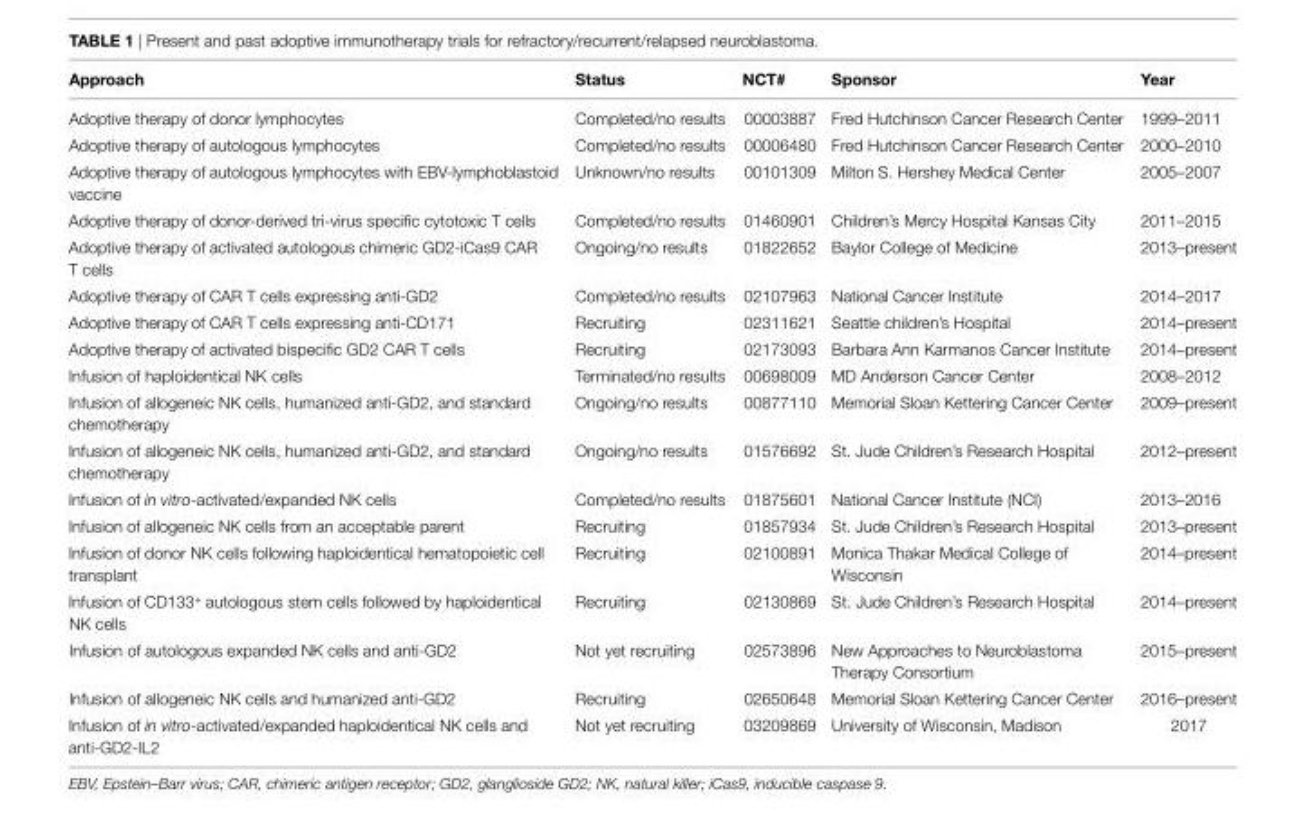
<table><thead><tr><td>Approach</td><td>status</td><td>Nct#</td><td>sponsor</td><td>Year</td></tr></thead><tbody><tr><td>Adoptive therapy of donor lymphocytes</td><td>Completed/no results</td><td>00003887</td><td>Fred Hutchinson Cancer Research Center</td><td>1999–2011</td></tr><tr><td>Adoptive therapy of autologous lymphocytes</td><td>Completed/no results</td><td>00006480</td><td>Fred Hutchinson Cancer Research Center</td><td>2000–2010</td></tr><tr><td>Adoptive therapy of autologous lymphocytes with EBV-lymphoblastoid vaccine</td><td>Unknown/no results</td><td>00101309</td><td>Milton S. Hershey Medical Center</td><td>2005–2007</td></tr><tr><td>Adoptive therapy of donor-derived tri-virus specific cytotoxic T cells</td><td>Completed/no results</td><td>01460901</td><td>Children’s Mercy Hospital Kansas City</td><td>2011–2015</td></tr><tr><td>Adoptive therapy of activated autologous chimeric GD2-iCas9 CAR T cells</td><td>Ongoing/no results</td><td>01822652</td><td>Baylor College of Medicine</td><td>2013–present</td></tr><tr><td>Adoptive therapy of CAR T cells expressing anti-GD2</td><td>Completed/no results</td><td>02107963</td><td>National Cancer Institute</td><td>2014–2017</td></tr><tr><td>Adoptive therapy of CAR T cells expressing anti-CD171</td><td>Recruiting</td><td>02311621</td><td>Seattle children’s Hospital</td><td>2014–present</td></tr><tr><td>Adoptive therapy of activated bispecific GD2 CAR T cells</td><td>Recruiting</td><td>02173093</td><td>Barbara Ann Karmanos Cancer Institute</td><td>2014–present</td></tr><tr><td>Infusion of haploidentical NK cells</td><td>Terminated/no results</td><td>00698009</td><td>MD Anderson Cancer Center</td><td>2008–2012</td></tr><tr><td>Infusion of allogeneic NK cells, humanized anti-GD2, and standard chemotherapy</td><td>Ongoing/no results</td><td>00877110</td><td>Memorial Sloan Kettering Cancer Center</td><td>2009–present</td></tr><tr><td>Infusion of allogeneic NK cells, humanized anti-GD2, and standard chemotherapy</td><td>Ongoing/no results</td><td>01576692</td><td>St. Jude Children’s Research Hospital</td><td>2012–present</td></tr><tr><td>Infusion of in vitro-activated/expanded NK cells</td><td>Completed/no results</td><td>01875601</td><td>National Cancer Institute (NCI)</td><td>2013–2016</td></tr><tr><td>Infusion of allogeneic NK cells from an acceptable parent</td><td>Recruiting</td><td>01857934</td><td>St. Jude Children’s Research Hospital</td><td>2013–present</td></tr><tr><td>Infusion of donor NK cells following haploidentical hematopoietic cell transplant</td><td>Recruiting</td><td>02100891</td><td>Monica Thakar Medical College of Wisconsin</td><td>2014–present</td></tr><tr><td>Infusion of CD133<sup>+</sup> autologous stem cells followed by haploidentical NK cells</td><td>Recruiting</td><td>02130869</td><td>St. Jude Children’s Research Hospital</td><td>2014–present</td></tr><tr><td>Infusion of autologous expanded NK cells and anti-GD2</td><td>Not yet recruiting</td><td>02573896</td><td>New Approaches to Neuroblastoma Therapy Consortium</td><td>2015–present</td></tr><tr><td>Infusion of allogeneic NK cells and humanized anti-GD2</td><td>Recruiting</td><td>02650648</td><td>Memorial Sloan Kettering Cancer Center</td><td>2016–present</td></tr><tr><td>Infusion of in vitro-activated/expanded haploidentical NK cells and anti-GD2-IL2</td><td>Not yet recruiting</td><td>03209869</td><td>University of Wisconsin, Madison</td><td>2017</td></tr></tbody></table>